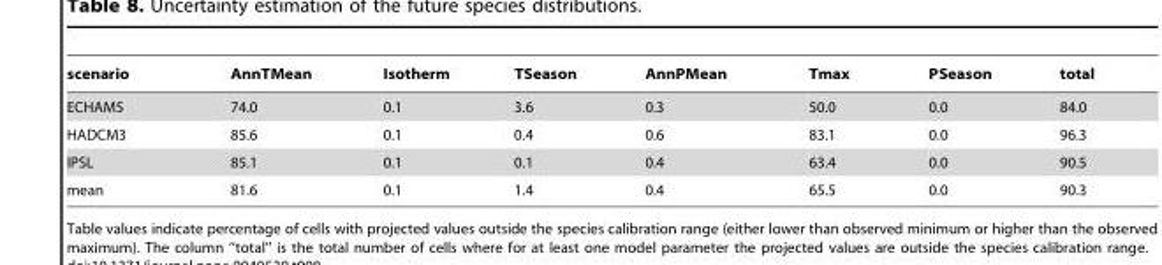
<table><thead><tr><td>scenario</td><td>AnnTMean</td><td>Isotherm</td><td>TSeason</td><td>AnnPMean</td><td>Tmax</td><td>PSeason</td><td>total</td></tr></thead><tbody><tr><td>ECHAM5</td><td>74.0</td><td>0.1</td><td>3.6</td><td>0.3</td><td>50.0</td><td>0.0</td><td>84.0</td></tr><tr><td>HADCM3</td><td>85.6</td><td>0.1</td><td>0.4</td><td>0.6</td><td>83.1</td><td>0.0</td><td>96.3</td></tr><tr><td>IPSL</td><td>85.1</td><td>0.1</td><td>0.1</td><td>0.4</td><td>63.4</td><td>0.0</td><td>90.5</td></tr><tr><td>mean</td><td>81.6</td><td>0.1</td><td>1.4</td><td>0.4</td><td>65.5</td><td>0.0</td><td>90.3</td></tr></tbody></table>